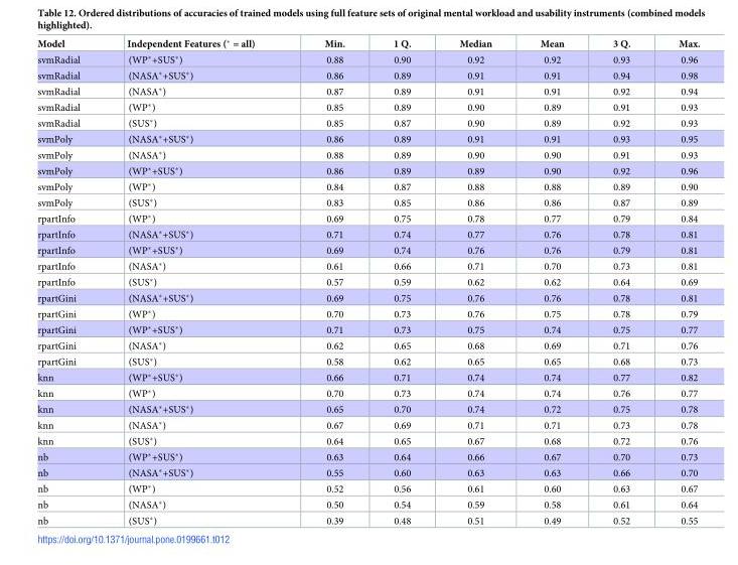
<table><thead><tr><td>Model</td><td>Independent Features (* = all)</td><td>Min.</td><td>1 Q.</td><td>Median</td><td>Mean</td><td>3 Q.</td><td>Max.</td></tr></thead><tbody><tr><td>svmRadial</td><td>(WP*+SUS*)</td><td>0.88</td><td>0.90</td><td>0.92</td><td>0.92</td><td>0.93</td><td>0.96</td></tr><tr><td>svmRadial</td><td>(NASA*+SUS*)</td><td>0.86</td><td>0.89</td><td>0.91</td><td>0.91</td><td>0.94</td><td>0.98</td></tr><tr><td>svmRadial</td><td>(NASA*)</td><td>0.87</td><td>0.89</td><td>0.91</td><td>0.91</td><td>0.92</td><td>0.94</td></tr><tr><td>svmRadial</td><td>(WP*)</td><td>0.85</td><td>0.89</td><td>0.90</td><td>0.89</td><td>0.91</td><td>0.93</td></tr><tr><td>svmRadial</td><td>(SUS*)</td><td>0.85</td><td>0.87</td><td>0.90</td><td>0.89</td><td>0.92</td><td>0.93</td></tr><tr><td>svmPoly</td><td>(NASA*+SUS*)</td><td>0.86</td><td>0.89</td><td>0.91</td><td>0.91</td><td>0.93</td><td>0.95</td></tr><tr><td>svmPoly</td><td>(NASA*)</td><td>0.88</td><td>0.89</td><td>0.90</td><td>0.90</td><td>0.91</td><td>0.93</td></tr><tr><td>svmPoly</td><td>(WP*+SUS*)</td><td>0.86</td><td>0.89</td><td>0.89</td><td>0.90</td><td>0.92</td><td>0.96</td></tr><tr><td>svmPoly</td><td>(WP*)</td><td>0.84</td><td>0.87</td><td>0.88</td><td>0.88</td><td>0.89</td><td>0.90</td></tr><tr><td>svmPoly</td><td>(SUS*)</td><td>0.83</td><td>0.85</td><td>0.86</td><td>0.86</td><td>0.87</td><td>0.89</td></tr><tr><td>rpartInfo</td><td>(WP*)</td><td>0.69</td><td>0.75</td><td>0.78</td><td>0.77</td><td>0.79</td><td>0.84</td></tr><tr><td>rpartInfo</td><td>(NASA*+SUS*)</td><td>0.71</td><td>0.74</td><td>0.77</td><td>0.76</td><td>0.78</td><td>0.81</td></tr><tr><td>rpartInfo</td><td>(WP*+SUS*)</td><td>0.69</td><td>0.74</td><td>0.76</td><td>0.76</td><td>0.79</td><td>0.81</td></tr><tr><td>rpartInfo</td><td>(NASA*)</td><td>0.61</td><td>0.66</td><td>0.71</td><td>0.70</td><td>0.73</td><td>0.81</td></tr><tr><td>rpartInfo</td><td>(SUS*)</td><td>0.57</td><td>0.59</td><td>0.62</td><td>0.62</td><td>0.64</td><td>0.69</td></tr><tr><td>rpartGini</td><td>(NASA*+SUS*)</td><td>0.69</td><td>0.75</td><td>0.76</td><td>0.76</td><td>0.78</td><td>0.81</td></tr><tr><td>rpartGini</td><td>(WP*)</td><td>0.70</td><td>0.73</td><td>0.76</td><td>0.75</td><td>0.78</td><td>0.79</td></tr><tr><td>rpartGini</td><td>(WP*+SUS*)</td><td>0.71</td><td>0.73</td><td>0.75</td><td>0.74</td><td>0.75</td><td>0.77</td></tr><tr><td>rpartGini</td><td>(NASA*)</td><td>0.62</td><td>0.65</td><td>0.68</td><td>0.69</td><td>0.71</td><td>0.76</td></tr><tr><td>rpartGini</td><td>(SUS*)</td><td>0.58</td><td>0.62</td><td>0.65</td><td>0.65</td><td>0.68</td><td>0.73</td></tr><tr><td>knn</td><td>(WP*+SUS*)</td><td>0.66</td><td>0.71</td><td>0.74</td><td>0.74</td><td>0.77</td><td>0.82</td></tr><tr><td>knn</td><td>(WP*)</td><td>0.70</td><td>0.73</td><td>0.74</td><td>0.74</td><td>0.76</td><td>0.77</td></tr><tr><td>knn</td><td>(NASA*+SUS*)</td><td>0.65</td><td>0.70</td><td>0.74</td><td>0.72</td><td>0.75</td><td>0.78</td></tr><tr><td>knn</td><td>(NASA*)</td><td>0.67</td><td>0.69</td><td>0.71</td><td>0.71</td><td>0.73</td><td>0.78</td></tr><tr><td>knn</td><td>(SUS*)</td><td>0.64</td><td>0.65</td><td>0.67</td><td>0.68</td><td>0.72</td><td>0.76</td></tr><tr><td>nb</td><td>(WP*+SUS*)</td><td>0.63</td><td>0.64</td><td>0.66</td><td>0.67</td><td>0.70</td><td>0.73</td></tr><tr><td>nb</td><td>(NASA*+SUS*)</td><td>0.55</td><td>0.60</td><td>0.63</td><td>0.63</td><td>0.66</td><td>0.70</td></tr><tr><td>nb</td><td>(WP*)</td><td>0.52</td><td>0.56</td><td>0.61</td><td>0.60</td><td>0.63</td><td>0.67</td></tr><tr><td>nb</td><td>(NASA*)</td><td>0.50</td><td>0.54</td><td>0.59</td><td>0.58</td><td>0.61</td><td>0.64</td></tr><tr><td>nb</td><td>(SUS*)</td><td>0.39</td><td>0.48</td><td>0.51</td><td>0.49</td><td>0.52</td><td>0.55</td></tr></tbody></table>